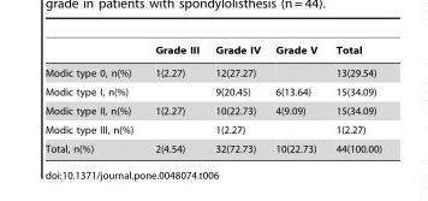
<table><thead><tr><td></td><td>Grade III</td><td>Grade IV</td><td>Grade V</td><td>Total</td></tr></thead><tbody><tr><td>Modic type 0, n(%)</td><td>1(2.27)</td><td>12(27.27)</td><td></td><td>13(29.54)</td></tr><tr><td>Modic type I, n(%)</td><td></td><td>9(20.45)</td><td>6(13.64)</td><td>15(34.09)</td></tr><tr><td>Modic type II, n(%)</td><td>1(2.27)</td><td>10(22.73)</td><td>4(9.09)</td><td>15(34.09)</td></tr><tr><td>Modic type III, n(%)</td><td></td><td>1(2.27)</td><td></td><td>1(2.27)</td></tr><tr><td>Total, n(%)</td><td>2(4.54)</td><td>32(72.73)</td><td>10(22.73)</td><td>44(100.00)</td></tr></tbody></table>